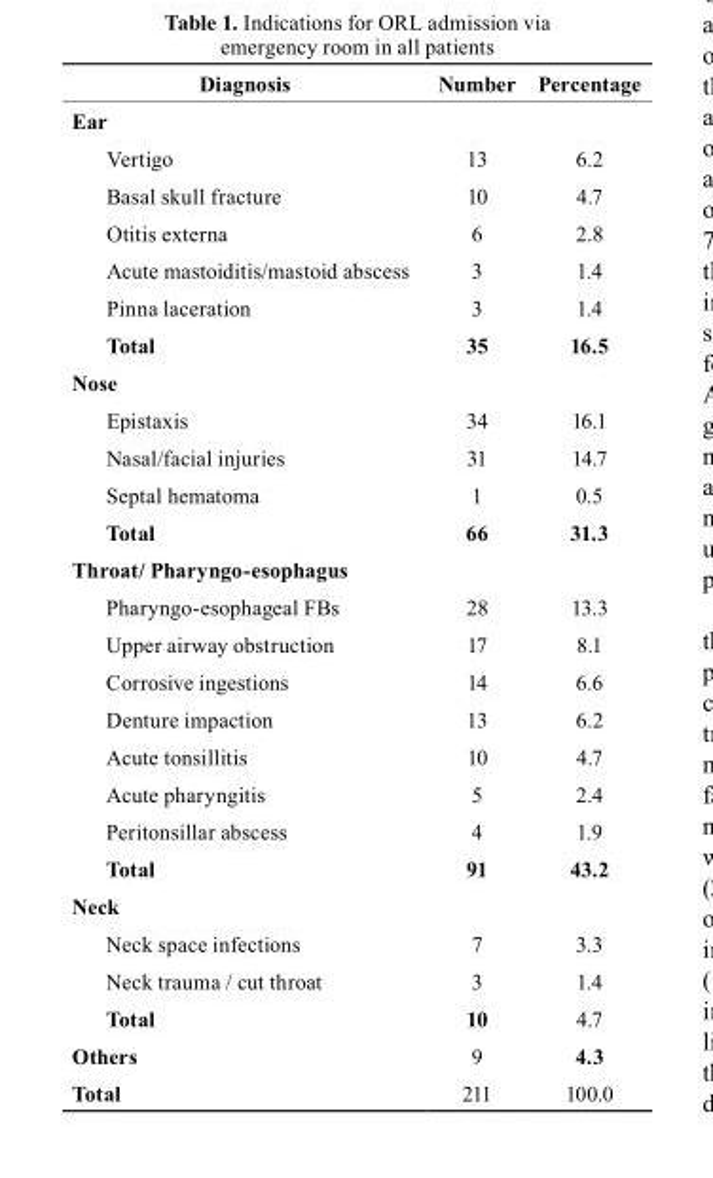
<table><thead><tr><td>Diagnosis</td><td>Number</td><td>Percentage</td></tr></thead><tbody><tr><td colspan="3">Ear</td></tr><tr><td>Vertigo</td><td>13</td><td>6.2</td></tr><tr><td>Basal skull fracture</td><td>10</td><td>4.7</td></tr><tr><td>Otitis externa</td><td>6</td><td>2.8</td></tr><tr><td>Acute mastoiditis/mastoid abscess</td><td>3</td><td>1.4</td></tr><tr><td>Pinna laceration</td><td>3</td><td>1.4</td></tr><tr><td>total</td><td>35</td><td>16.5</td></tr><tr><td colspan="3">Nose</td></tr><tr><td>Epistaxis</td><td>34</td><td>16.1</td></tr><tr><td>Nasal/facial injuries</td><td>31</td><td>14.7</td></tr><tr><td>Septal hematoma</td><td>1</td><td>0.5</td></tr><tr><td>total</td><td>66</td><td>31.3</td></tr><tr><td colspan="3">Throat/ Pharyngo-esophagus</td></tr><tr><td>Pharyngo-esophageal FBs</td><td>28</td><td>13.3</td></tr><tr><td>Upper airway obstruction</td><td>17</td><td>8.1</td></tr><tr><td>Corrosive ingestions</td><td>14</td><td>6.6</td></tr><tr><td>Denture impaction</td><td>13</td><td>6.2</td></tr><tr><td>Acute tonsillitis</td><td>10</td><td>4.7</td></tr><tr><td>Acute pharyngitis</td><td>5</td><td>2.4</td></tr><tr><td>Peritonsillar abscess</td><td>4</td><td>1.9</td></tr><tr><td>total</td><td>91</td><td>43.2</td></tr><tr><td colspan="3">Neck</td></tr><tr><td>Neck space infections</td><td>7</td><td>3.3</td></tr><tr><td>Neck trauma / cut throat</td><td>3</td><td>1.4</td></tr><tr><td>total</td><td>10</td><td>4.7</td></tr><tr><td>Others</td><td>9</td><td>4.3</td></tr><tr><td>total</td><td>211</td><td>100.0</td></tr></tbody></table>